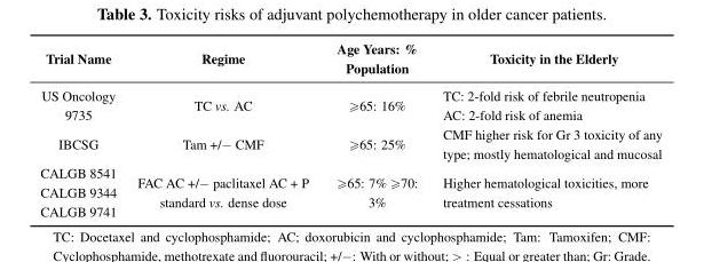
<table><thead><tr><td>Trial Name</td><td>Regime</td><td>Age Years: % Population</td><td>Toxicity in the Elderly</td></tr></thead><tbody><tr><td>US Oncology 9735</td><td>TC vs. AC</td><td>ě65: 16%</td><td>TC: 2-fold risk of febrile neutropenia AC: 2-fold risk of anemia</td></tr><tr><td>IBCSG</td><td>Tam +/− CMF</td><td>ě65: 25%</td><td>CMF higher risk for Gr 3 toxicity of any type; mostly hematological and mucosal</td></tr><tr><td>CALGB 8541 CALGB 9344 CALGB 9741</td><td>FAC AC +/− paclitaxel AC + P standard vs. dense dose</td><td>ě65: 7% ě70: 3%</td><td>Higher hematological toxicities, more treatment cessations</td></tr></tbody></table>